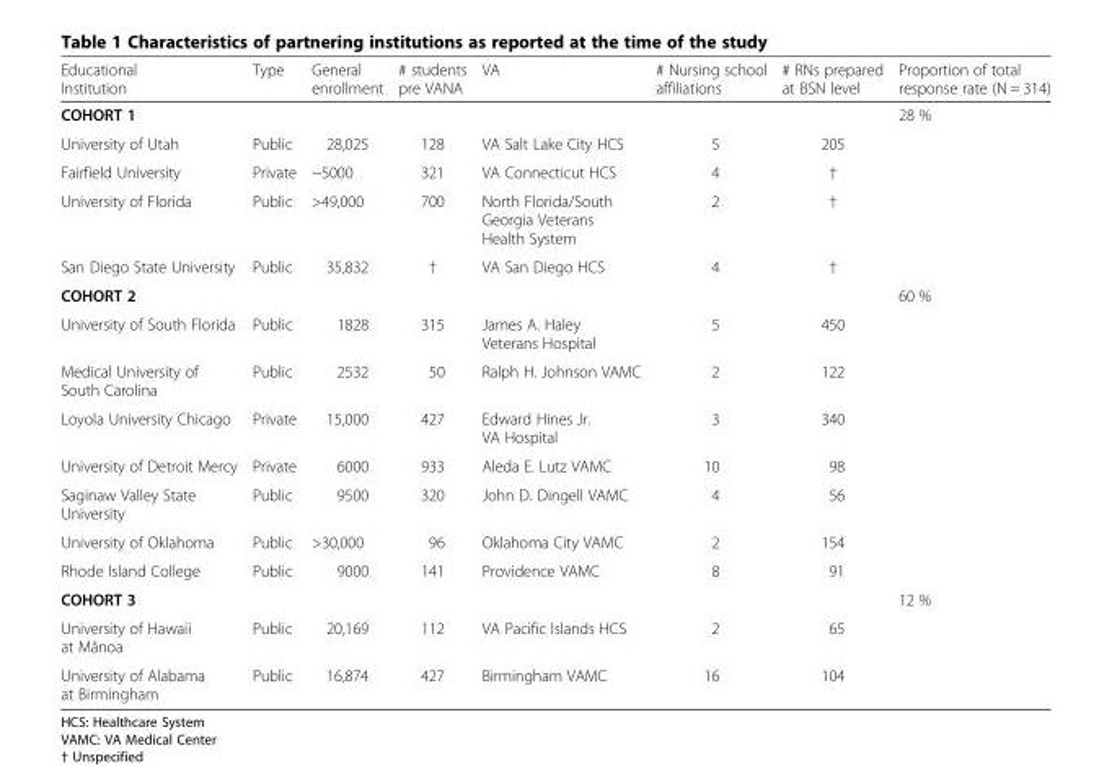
<table><thead><tr><td>Educational Institution</td><td>Type</td><td>General enrollment</td><td># students pre VANA</td><td>VA</td><td># Nursing school affiliations</td><td># RNs prepared at BSN level</td><td>Proportion of total response rate (N = 314)</td></tr></thead><tbody><tr><td colspan="7">COHORT 1</td><td>28 %</td></tr><tr><td>University of Utah</td><td>Public</td><td>28,025</td><td>128</td><td>VA Salt Lake City HCS</td><td>5</td><td>205</td><td rowspan="4"></td></tr><tr><td>Fairfield University</td><td>Private</td><td>~5000</td><td>321</td><td>VA Connecticut HCS</td><td>4</td><td>†</td></tr><tr><td>University of Florida</td><td>Public</td><td>&gt;49,000</td><td>700</td><td>North Florida/South Georgia Veterans Health System</td><td>2</td><td>†</td></tr><tr><td>San Diego State University</td><td>Public</td><td>35,832</td><td>†</td><td>VA San Diego HCS</td><td>4</td><td>†</td></tr><tr><td colspan="7">COHORT 2</td><td>60 %</td></tr><tr><td>University of South Florida</td><td>Public</td><td>1828</td><td>315</td><td>James A. Haley Veterans Hospital</td><td>5</td><td>450</td><td rowspan="7"></td></tr><tr><td>Medical University of South Carolina</td><td>Public</td><td>2532</td><td>50</td><td>Ralph H. Johnson VAMC</td><td>2</td><td>122</td></tr><tr><td>Loyola University Chicago</td><td>Private</td><td>15,000</td><td>427</td><td>Edward Hines Jr. VA Hospital</td><td>3</td><td>340</td></tr><tr><td>University of Detroit Mercy</td><td>Private</td><td>6000</td><td>933</td><td>Aleda E. Lutz VAMC</td><td>10</td><td>98</td></tr><tr><td>Saginaw Valley State University</td><td>Public</td><td>9500</td><td>320</td><td>John D. Dingell VAMC</td><td>4</td><td>56</td></tr><tr><td>University of Oklahoma</td><td>Public</td><td>&gt;30,000</td><td>96</td><td>Oklahoma City VAMC</td><td>2</td><td>154</td></tr><tr><td>Rhode Island College</td><td>Public</td><td>9000</td><td>141</td><td>Providence VAMC</td><td>8</td><td>91</td></tr><tr><td colspan="7">COHORT 3</td><td>12 %</td></tr><tr><td>University of Hawaii at Mãnoa</td><td>Public</td><td>20,169</td><td>112</td><td>VA Pacific Islands HCS</td><td>2</td><td>65</td><td rowspan="2"></td></tr><tr><td>University of Alabama at Birmingham</td><td>Public</td><td>16,874</td><td>427</td><td>Birmingham VAMC</td><td>16</td><td>104</td></tr></tbody></table>